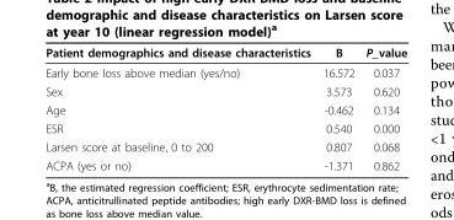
<table><thead><tr><td>Patient demographics and disease characteristics</td><td>B</td><td>P_value</td></tr></thead><tbody><tr><td>Early bone loss above median (yes/no)</td><td>16.572</td><td>0.037</td></tr><tr><td>Sex</td><td>3.573</td><td>0.620</td></tr><tr><td>Age</td><td>-0.462</td><td>0.134</td></tr><tr><td>ESR</td><td>0.540</td><td>0.000</td></tr><tr><td>Larsen score at baseline, 0 to 200</td><td>0.807</td><td>0.068</td></tr><tr><td>ACPA (yes or no)</td><td>-1.371</td><td>0.862</td></tr></tbody></table>